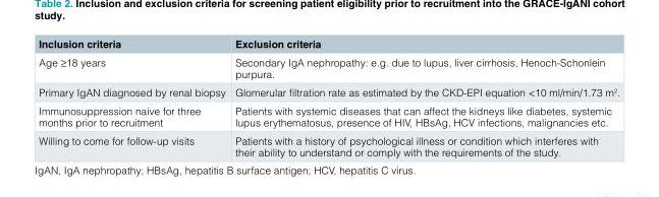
<table><thead><tr><td>Inclusion criteria</td><td>Exclusion criteria</td></tr></thead><tbody><tr><td>Age ≥18 years</td><td>Secondary IgA nephropathy: e.g. due to lupus, liver cirrhosis, Henoch-Schonlein purpura.</td></tr><tr><td>Primary IgAN diagnosed by renal biopsy</td><td>Glomerular filtration rate as estimated by the CKD-EPI equation &lt;10 ml/min/1.73 m<sup>2</sup>.</td></tr><tr><td>Immunosuppression naive for three months prior to recruitment</td><td>Patients with systemic diseases that can affect the kidneys like diabetes, systemic lupus erythematosus, presence of HIV, HBsAg, HCV infections, malignancies etc.</td></tr><tr><td>Willing to come for follow-up visits</td><td>Patients with a history of psychological illness or condition which interferes with their ability to understand or comply with the requirements of the study.</td></tr></tbody></table>